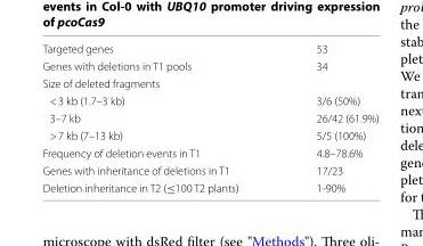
<table><tbody><tr><td>Targeted genes</td><td>53</td></tr><tr><td>Genes with deletions in T1 pools</td><td>34</td></tr><tr><td colspan="2">Size of deleted fragments</td></tr><tr><td>&lt; 3 kb (1.7–3 kb)</td><td>3/6 (50%)</td></tr><tr><td>3–7 kb</td><td>26/42 (61.9%)</td></tr><tr><td>&gt; 7 kb (7–13 kb)</td><td>5/5 (100%)</td></tr><tr><td>Frequency of deletion events in T1</td><td>4.8–78.6%</td></tr><tr><td>Genes with inheritance of deletions in T1</td><td>17/23</td></tr><tr><td>Deletion inheritance in T2 (≤100 T2 plants)</td><td>1‑90%</td></tr></tbody></table>